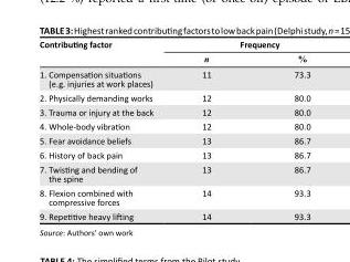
<table><thead><tr><td rowspan="2">Contributing factor</td><td colspan="2">Frequency</td></tr><tr><td>n</td><td>%</td></tr></thead><tbody><tr><td>1. Compensation situations (e.g. injuries at work places)</td><td>11</td><td>73.3</td></tr><tr><td>2. Physically demanding works</td><td>12</td><td>80.0</td></tr><tr><td>3. Trauma or injury at the back</td><td>12</td><td>80.0</td></tr><tr><td>4. Whole-body vibration</td><td>12</td><td>80.0</td></tr><tr><td>5. Fear avoidance beliefs</td><td>13</td><td>86.7</td></tr><tr><td>6. History of back pain</td><td>13</td><td>86.7</td></tr><tr><td>7. Twisting and bending of the spine</td><td>13</td><td>86.7</td></tr><tr><td>8. Flexion combined with compressive forces</td><td>14</td><td>93.3</td></tr><tr><td>9. Repetitive heavy lifting</td><td>14</td><td>93.3</td></tr></tbody></table>